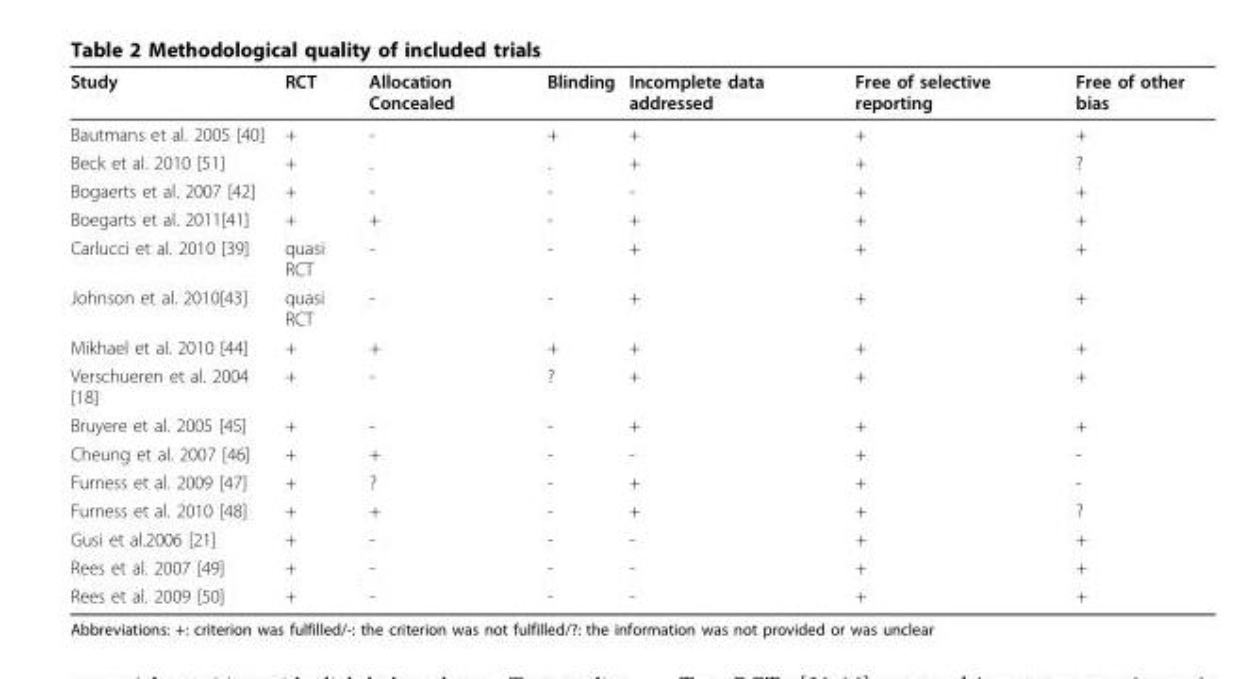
<table><thead><tr><td>Study</td><td>RCT</td><td>Allocation Concealed</td><td>Blinding</td><td>Incomplete data addressed</td><td>Free of selective reporting</td><td>Free of other bias</td></tr></thead><tbody><tr><td>Bautmans et al. 2005 [40]</td><td>+</td><td>-</td><td>+</td><td>+</td><td>+</td><td>+</td></tr><tr><td>Beck et al. 2010 [51]</td><td>+</td><td>.</td><td>.</td><td>+</td><td>+</td><td>?</td></tr><tr><td>Bogaerts et al. 2007 [42]</td><td>+</td><td>-</td><td>-</td><td>-</td><td>+</td><td>+</td></tr><tr><td>Boegarts et al. 2011[41]</td><td>+</td><td>+</td><td>-</td><td>+</td><td>+</td><td>+</td></tr><tr><td>Carlucci et al. 2010 [39]</td><td>quasi RCT</td><td>-</td><td>-</td><td>+</td><td>+</td><td>+</td></tr><tr><td>Johnson et al. 2010[43]</td><td>quasi RCT</td><td>-</td><td>-</td><td>+</td><td>+</td><td>+</td></tr><tr><td>Mikhael et al. 2010 [44]</td><td>+</td><td>+</td><td>+</td><td>+</td><td>+</td><td>+</td></tr><tr><td>Verschueren et al. 2004 [18]</td><td>+</td><td>-</td><td>?</td><td>+</td><td>+</td><td>+</td></tr><tr><td>Bruyere et al. 2005 [45]</td><td>+</td><td>-</td><td>-</td><td>+</td><td>+</td><td>+</td></tr><tr><td>Cheung et al. 2007 [46]</td><td>+</td><td>+</td><td>-</td><td>-</td><td>+</td><td>-</td></tr><tr><td>Furness et al. 2009 [47]</td><td>+</td><td>?</td><td>-</td><td>+</td><td>+</td><td>-</td></tr><tr><td>Furness et al. 2010 [48]</td><td>+</td><td>+</td><td>-</td><td>+</td><td>+</td><td>?</td></tr><tr><td>Gusi et al.2006 [21]</td><td>+</td><td>-</td><td>-</td><td>-</td><td>+</td><td>+</td></tr><tr><td>Rees et al. 2007 [49]</td><td>+</td><td>-</td><td>-</td><td>-</td><td>+</td><td>+</td></tr><tr><td>Rees et al. 2009 [50]</td><td>+</td><td>-</td><td>-</td><td>-</td><td>+</td><td>+</td></tr></tbody></table>